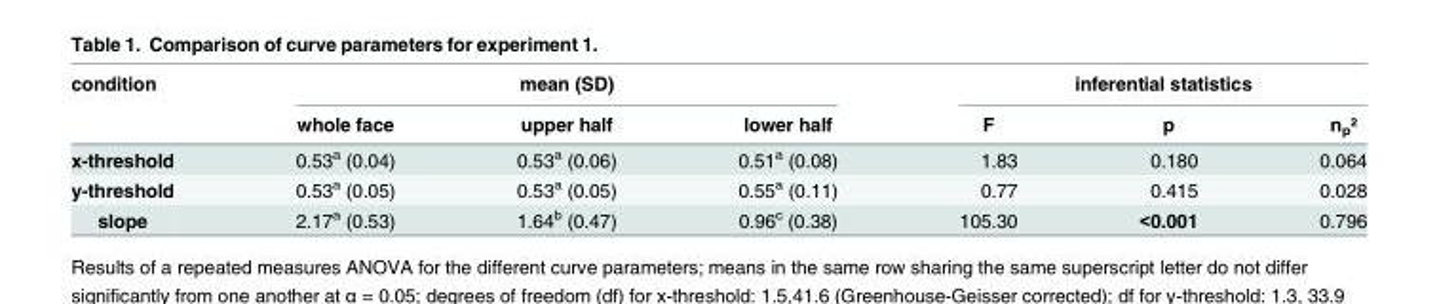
<table><thead><tr><td rowspan="2">condition</td><td colspan="3">mean (SD)</td><td colspan="3">inferential statistics</td></tr><tr><td>whole face</td><td>upper half</td><td>lower half</td><td>F</td><td>p</td><td>n<sub>p</sub>²</td></tr></thead><tbody><tr><td>x-threshold</td><td>0.53<sup>a</sup> (0.04)</td><td>0.53<sup>a</sup> (0.06)</td><td>0.51<sup>a</sup> (0.08)</td><td>1.83</td><td>0.180</td><td>0.064</td></tr><tr><td>y-threshold</td><td>0.53<sup>a</sup> (0.05)</td><td>0.53<sup>a</sup> (0.05)</td><td>0.55<sup>a</sup> (0.11)</td><td>0.77</td><td>0.415</td><td>0.028</td></tr><tr><td>slope</td><td>2.17<sup>a</sup> (0.53)</td><td>1.64<sup>b</sup> (0.47)</td><td>0.96<sup>c</sup> (0.38)</td><td>105.30</td><td>&lt;0.001</td><td>0.796</td></tr></tbody></table>